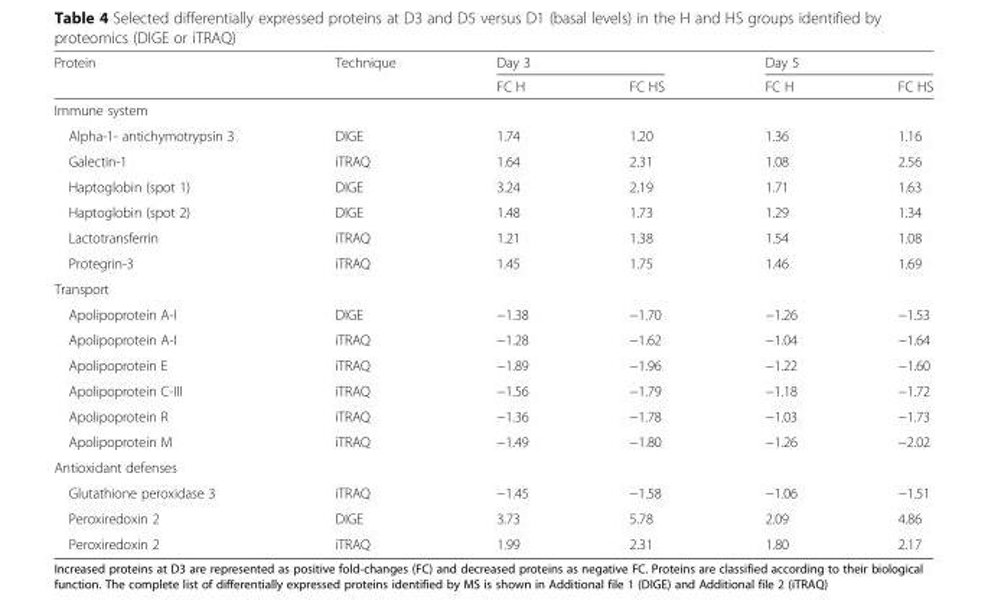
<table><thead><tr><td rowspan="2">Protein</td><td rowspan="2">Technique</td><td colspan="2">Day 3</td><td colspan="2">Day 5</td></tr><tr><td>FC H</td><td>FC HS</td><td>FC H</td><td>FC HS</td></tr></thead><tbody><tr><td colspan="6">Immune system</td></tr><tr><td>Alpha-1- antichymotrypsin 3</td><td>DIGE</td><td>1.74</td><td>1.20</td><td>1.36</td><td>1.16</td></tr><tr><td>Galectin-1</td><td>iTRAQ</td><td>1.64</td><td>2.31</td><td>1.08</td><td>2.56</td></tr><tr><td>Haptoglobin (spot 1)</td><td>DIGE</td><td>3.24</td><td>2.19</td><td>1.71</td><td>1.63</td></tr><tr><td>Haptoglobin (spot 2)</td><td>DIGE</td><td>1.48</td><td>1.73</td><td>1.29</td><td>1.34</td></tr><tr><td>Lactotransferrin</td><td>iTRAQ</td><td>1.21</td><td>1.38</td><td>1.54</td><td>1.08</td></tr><tr><td>Protegrin-3</td><td>iTRAQ</td><td>1.45</td><td>1.75</td><td>1.46</td><td>1.69</td></tr><tr><td colspan="6">Transport</td></tr><tr><td>Apolipoprotein A-I</td><td>DIGE</td><td>−1.38</td><td>−1.70</td><td>−1.26</td><td>−1.53</td></tr><tr><td>Apolipoprotein A-I</td><td>iTRAQ</td><td>−1.28</td><td>−1.62</td><td>−1.04</td><td>−1.64</td></tr><tr><td>Apolipoprotein E</td><td>iTRAQ</td><td>−1.89</td><td>−1.96</td><td>−1.22</td><td>−1.60</td></tr><tr><td>Apolipoprotein C-III</td><td>iTRAQ</td><td>−1.56</td><td>−1.79</td><td>−1.18</td><td>−1.72</td></tr><tr><td>Apolipoprotein R</td><td>iTRAQ</td><td>−1.36</td><td>−1.78</td><td>−1.03</td><td>−1.73</td></tr><tr><td>Apolipoprotein M</td><td>iTRAQ</td><td>−1.49</td><td>−1.80</td><td>−1.26</td><td>−2.02</td></tr><tr><td colspan="6">Antioxidant defenses</td></tr><tr><td>Glutathione peroxidase 3</td><td>iTRAQ</td><td>−1.45</td><td>−1.58</td><td>−1.06</td><td>−1.51</td></tr><tr><td>Peroxiredoxin 2</td><td>DIGE</td><td>3.73</td><td>5.78</td><td>2.09</td><td>4.86</td></tr><tr><td>Peroxiredoxin 2</td><td>iTRAQ</td><td>1.99</td><td>2.31</td><td>1.80</td><td>2.17</td></tr></tbody></table>